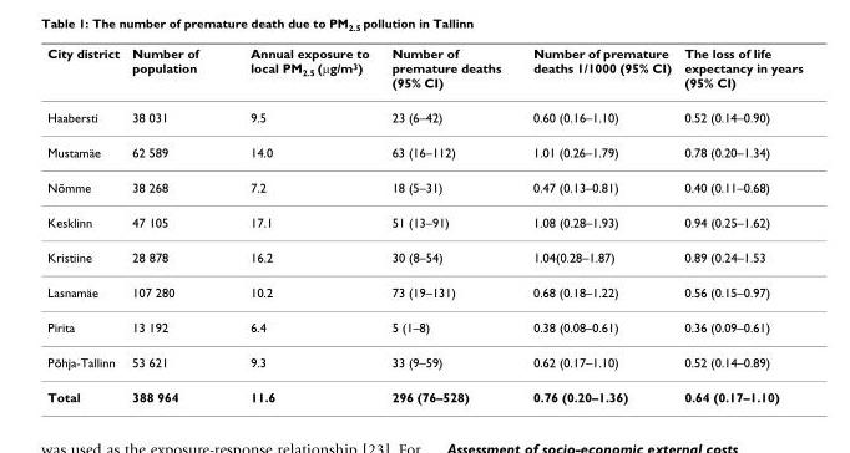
<table><thead><tr><td>City district</td><td>Number of population</td><td>Annual exposure to local PM<sub>2.5</sub> (μg/m<sup>3</sup>)</td><td>Number of premature deaths (95% CI)</td><td>Number of premature deaths 1/1000 (95% CI)</td><td>The loss of life expectancy in years (95% CI)</td></tr></thead><tbody><tr><td>Haabersti</td><td>38 031</td><td>9.5</td><td>23 (6–42)</td><td>0.60 (0.16–1.10)</td><td>0.52 (0.14–0.90)</td></tr><tr><td>Mustamäe</td><td>62 589</td><td>14.0</td><td>63 (16–112)</td><td>1.01 (0.26–1.79)</td><td>0.78 (0.20–1.34)</td></tr><tr><td>Nõmme</td><td>38 268</td><td>7.2</td><td>18 (5–31)</td><td>0.47 (0.13–0.81)</td><td>0.40 (0.11–0.68)</td></tr><tr><td>Kesklinn</td><td>47 105</td><td>17.1</td><td>51 (13–91)</td><td>1.08 (0.28–1.93)</td><td>0.94 (0.25–1.62)</td></tr><tr><td>Kristiine</td><td>28 878</td><td>16.2</td><td>30 (8–54)</td><td>1.04(0.28–1.87)</td><td>0.89 (0.24–1.53</td></tr><tr><td>Lasnamäe</td><td>107 280</td><td>10.2</td><td>73 (19–131)</td><td>0.68 (0.18–1.22)</td><td>0.56 (0.15–0.97)</td></tr><tr><td>Pirita</td><td>13 192</td><td>6.4</td><td>5 (1–8)</td><td>0.38 (0.08–0.61)</td><td>0.36 (0.09–0.61)</td></tr><tr><td>Põhja-Tallinn</td><td>53 621</td><td>9.3</td><td>33 (9–59)</td><td>0.62 (0.17–1.10)</td><td>0.52 (0.14–0.89)</td></tr><tr><td>Total</td><td>388 964</td><td>11.6</td><td>296 (76–528)</td><td>0.76 (0.20–1.36)</td><td>0.64 (0.17–1.10)</td></tr></tbody></table>